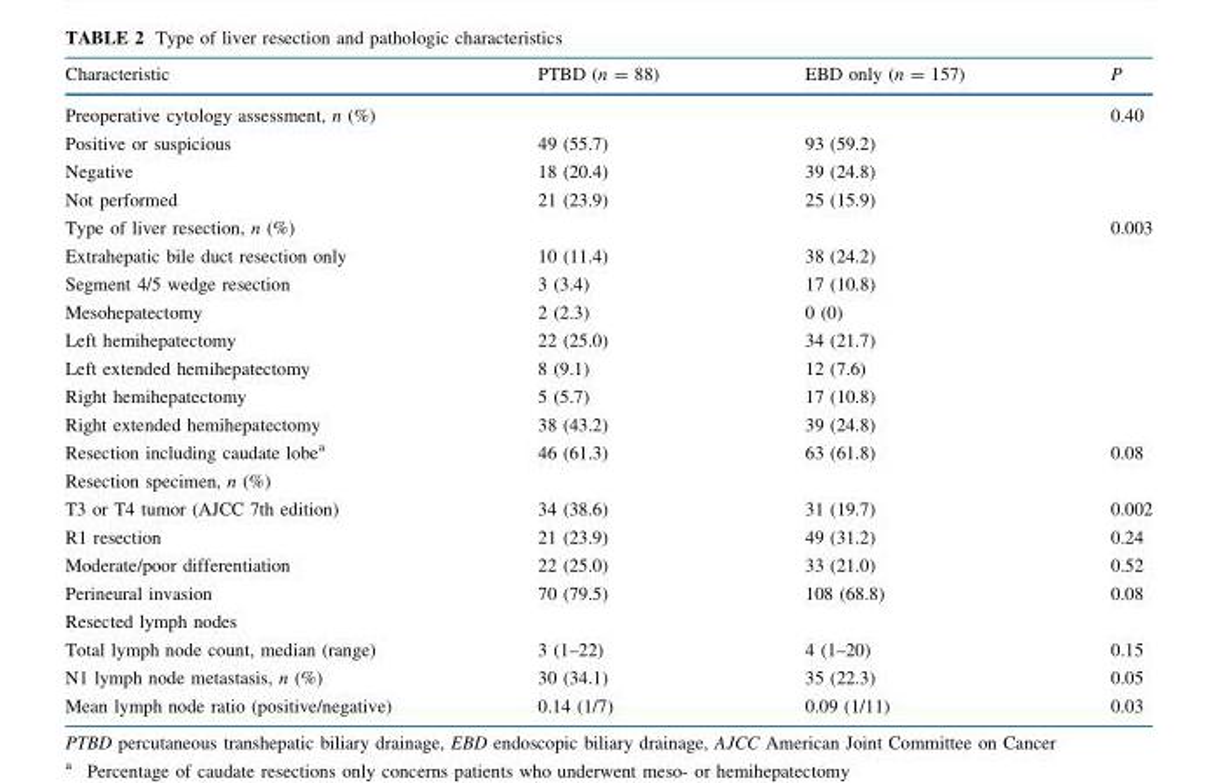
<table><thead><tr><td>Characteristic</td><td>PTBD (n = 88)</td><td>EBD only (n = 157)</td><td>P</td></tr></thead><tbody><tr><td>Preoperative cytology assessment, n (%)</td><td></td><td></td><td>0.40</td></tr><tr><td>Positive or suspicious</td><td>49 (55.7)</td><td>93 (59.2)</td><td></td></tr><tr><td>Negative</td><td>18 (20.4)</td><td>39 (24.8)</td><td></td></tr><tr><td>Not performed</td><td>21 (23.9)</td><td>25 (15.9)</td><td></td></tr><tr><td>Type of liver resection, n (%)</td><td></td><td></td><td>0.003</td></tr><tr><td>Extrahepatic bile duct resection only</td><td>10 (11.4)</td><td>38 (24.2)</td><td></td></tr><tr><td>Segment 4/5 wedge resection</td><td>3 (3.4)</td><td>17 (10.8)</td><td></td></tr><tr><td>Mesohepatectomy</td><td>2 (2.3)</td><td>0 (0)</td><td></td></tr><tr><td>Left hemihepatectomy</td><td>22 (25.0)</td><td>34 (21.7)</td><td></td></tr><tr><td>Left extended hemihepatectomy</td><td>8 (9.1)</td><td>12 (7.6)</td><td></td></tr><tr><td>Right hemihepatectomy</td><td>5 (5.7)</td><td>17 (10.8)</td><td></td></tr><tr><td>Right extended hemihepatectomy</td><td>38 (43.2)</td><td>39 (24.8)</td><td></td></tr><tr><td>Resection including caudate lobe<sup>a</sup></td><td>46 (61.3)</td><td>63 (61.8)</td><td>0.08</td></tr><tr><td colspan="4">Resection specimen, n (%)</td></tr><tr><td>T3 or T4 tumor (AJCC 7th edition)</td><td>34 (38.6)</td><td>31 (19.7)</td><td>0.002</td></tr><tr><td>R1 resection</td><td>21 (23.9)</td><td>49 (31.2)</td><td>0.24</td></tr><tr><td>Moderate/poor differentiation</td><td>22 (25.0)</td><td>33 (21.0)</td><td>0.52</td></tr><tr><td>Perineural invasion</td><td>70 (79.5)</td><td>108 (68.8)</td><td>0.08</td></tr><tr><td colspan="4">Resected lymph nodes</td></tr><tr><td>Total lymph node count, median (range)</td><td>3 (1–22)</td><td>4 (1–20)</td><td>0.15</td></tr><tr><td>N1 lymph node metastasis, n (%)</td><td>30 (34.1)</td><td>35 (22.3)</td><td>0.05</td></tr><tr><td>Mean lymph node ratio (positive/negative)</td><td>0.14 (1/7)</td><td>0.09 (1/11)</td><td>0.03</td></tr></tbody></table>